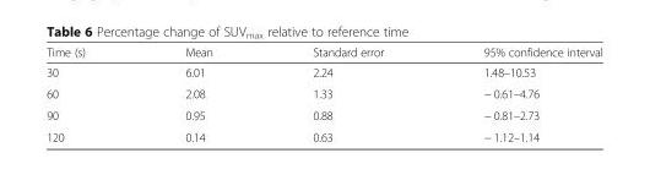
<table><thead><tr><td>Time (s)</td><td>Mean</td><td>Standard error</td><td>95% confidence interval</td></tr></thead><tbody><tr><td>30</td><td>6.01</td><td>2.24</td><td>1.48–10.53</td></tr><tr><td>60</td><td>2.08</td><td>1.33</td><td>− 0.61–4.76</td></tr><tr><td>90</td><td>0.95</td><td>0.88</td><td>− 0.81–2.73</td></tr><tr><td>120</td><td>0.14</td><td>0.63</td><td>− 1.12–1.14</td></tr></tbody></table>